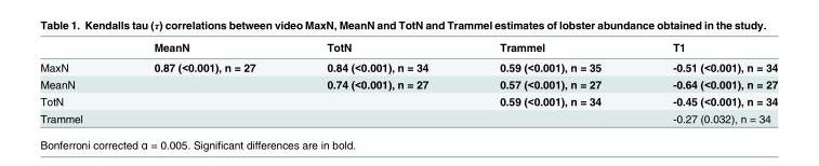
<table><thead><tr><td></td><td>MeanN</td><td>TotN</td><td>Trammel</td><td>T1</td></tr></thead><tbody><tr><td>MaxN</td><td>0.87 (&lt;0.001), n = 27</td><td>0.84 (&lt;0.001), n = 34</td><td>0.59 (&lt;0.001), n = 35</td><td>-0.51 (&lt;0.001), n = 34</td></tr><tr><td>MeanN</td><td></td><td>0.74 (&lt;0.001), n = 27</td><td>0.57 (&lt;0.001), n = 27</td><td>-0.64 (&lt;0.001), n = 27</td></tr><tr><td>TotN</td><td></td><td></td><td>0.59 (&lt;0.001), n = 34</td><td>-0.45 (&lt;0.001), n = 34</td></tr><tr><td>Trammel</td><td></td><td></td><td></td><td>-0.27 (0.032), n = 34</td></tr></tbody></table>